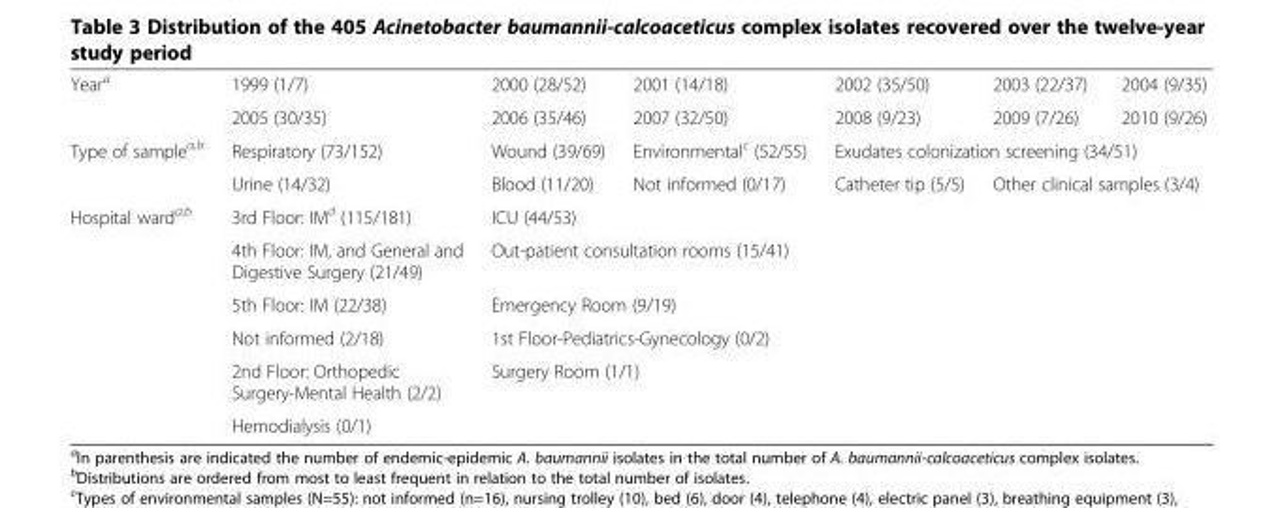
<table><tbody><tr><td rowspan="2">Year<sup>a</sup></td><td>1999 (1/7)</td><td>2000 (28/52)</td><td>2001 (14/18)</td><td>2002 (35/50)</td><td>2003 (22/37)</td><td>2004 (9/35)</td></tr><tr><td>2005 (30/35)</td><td>2006 (35/46)</td><td>2007 (32/50)</td><td>2008 (9/23)</td><td>2009 (7/26)</td><td>2010 (9/26)</td></tr><tr><td rowspan="2">Type of sample<sup>a,b</sup></td><td>Respiratory (73/152)</td><td>Wound (39/69)</td><td>Environmental<sup>c</sup> (52/55)</td><td colspan="3">Exudates colonization screening (34/51)</td></tr><tr><td>Urine (14/32)</td><td>Blood (11/20)</td><td>Not informed (0/17)</td><td>Catheter tip (5/5)</td><td colspan="2">Other clinical samples (3/4)</td></tr><tr><td rowspan="6">Hospital ward<sup>a,b</sup></td><td>3rd Floor: IM<sup>d</sup> (115/181)</td><td colspan="5">ICU (44/53)</td></tr><tr><td>4th Floor: IM, and General and Digestive Surgery (21/49)</td><td colspan="5">Out-patient consultation rooms (15/41)</td></tr><tr><td>5th Floor: IM (22/38)</td><td colspan="5">Emergency Room (9/19)</td></tr><tr><td>Not informed (2/18)</td><td colspan="5">1st Floor-Pediatrics-Gynecology (0/2)</td></tr><tr><td>2nd Floor: Orthopedic Surgery-Mental Health (2/2)</td><td colspan="5">Surgery Room (1/1)</td></tr><tr><td>Hemodialysis (0/1)</td><td colspan="5"></td></tr></tbody></table>